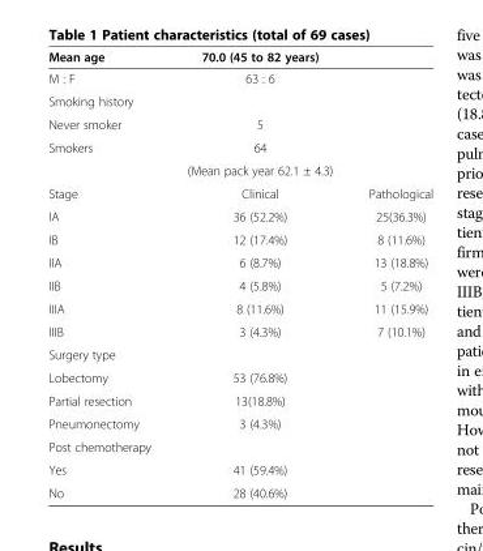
<table><thead><tr><td>Mean age</td><td>70.0 (45 to 82 years)</td><td></td></tr></thead><tbody><tr><td>M : F</td><td>63 : 6</td><td></td></tr><tr><td colspan="3">Smoking history</td></tr><tr><td>Never smoker</td><td>5</td><td></td></tr><tr><td rowspan="2">Smokers</td><td>64</td><td></td></tr><tr><td>(Mean pack year 62.1 ± 4.3)</td><td></td></tr><tr><td>Stage</td><td>Clinical</td><td>Pathological</td></tr><tr><td>IA</td><td>36 (52.2%)</td><td>25(36.3%)</td></tr><tr><td>IB</td><td>12 (17.4%)</td><td>8 (11.6%)</td></tr><tr><td>IIA</td><td>6 (8.7%)</td><td>13 (18.8%)</td></tr><tr><td>IIB</td><td>4 (5.8%)</td><td>5 (7.2%)</td></tr><tr><td>IIIA</td><td>8 (11.6%)</td><td>11 (15.9%)</td></tr><tr><td>IIIB</td><td>3 (4.3%)</td><td>7 (10.1%)</td></tr><tr><td colspan="3">Surgery type</td></tr><tr><td>Lobectomy</td><td>53 (76.8%)</td><td></td></tr><tr><td>Partial resection</td><td>13(18.8%)</td><td></td></tr><tr><td>Pneumonectomy</td><td>3 (4.3%)</td><td></td></tr><tr><td colspan="3">Post chemotherapy</td></tr><tr><td>Yes</td><td>41 (59.4%)</td><td></td></tr><tr><td>No</td><td>28 (40.6%)</td><td></td></tr></tbody></table>